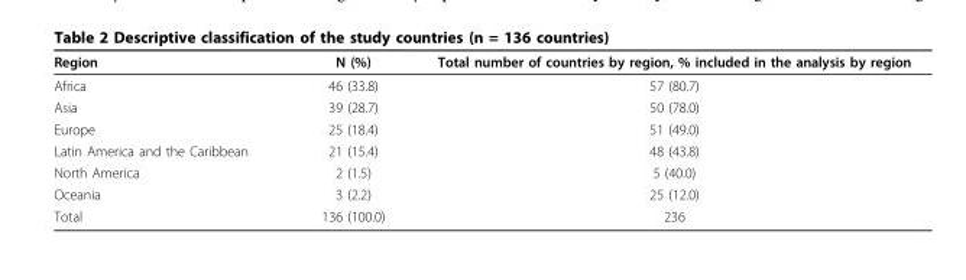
<table><thead><tr><td>Region</td><td>N (%)</td><td>Total number of countries by region, % included in the analysis by region</td></tr></thead><tbody><tr><td>Africa</td><td>46 (33.8)</td><td>57 (80.7)</td></tr><tr><td>Asia</td><td>39 (28.7)</td><td>50 (78.0)</td></tr><tr><td>Europe</td><td>25 (18.4)</td><td>51 (49.0)</td></tr><tr><td>Latin America and the Caribbean</td><td>21 (15.4)</td><td>48 (43.8)</td></tr><tr><td>North America</td><td>2 (1.5)</td><td>5 (40.0)</td></tr><tr><td>Oceania</td><td>3 (2.2)</td><td>25 (12.0)</td></tr><tr><td>Total</td><td>136 (100.0)</td><td>236</td></tr></tbody></table>